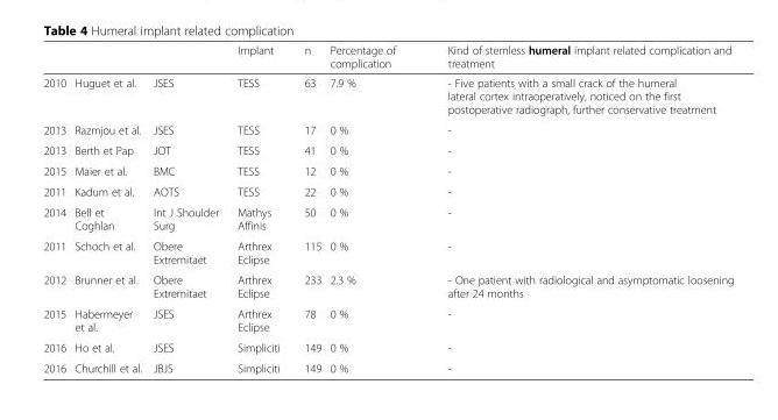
<table><thead><tr><td></td><td></td><td></td><td>Implant</td><td>n</td><td>Percentage of complication</td><td>Kind of stemless humeral implant related complication and treatment</td></tr></thead><tbody><tr><td>2010</td><td>Huguet et al.</td><td>JSES</td><td>TESS</td><td>63</td><td>7.9 %</td><td>- Five patients with a small crack of the humeral lateral cortex intraoperatively, noticed on the first postoperative radiograph, further conservative treatment</td></tr><tr><td>2013</td><td>Razmjou et al.</td><td>JSES</td><td>TESS</td><td>17</td><td>0 %</td><td>-</td></tr><tr><td>2013</td><td>Berth et Pap</td><td>JOT</td><td>TESS</td><td>41</td><td>0 %</td><td>-</td></tr><tr><td>2015</td><td>Maier et al.</td><td>BMC</td><td>TESS</td><td>12</td><td>0 %</td><td>-</td></tr><tr><td>2011</td><td>Kadum et al.</td><td>AOTS</td><td>TESS</td><td>22</td><td>0 %</td><td>-</td></tr><tr><td>2014</td><td>Bell et Coghlan</td><td>Int J Shoulder Surg</td><td>Mathys Affinis</td><td>50</td><td>0 %</td><td>-</td></tr><tr><td>2011</td><td>Schoch et al.</td><td>Obere Extremitaet</td><td>Arthrex Eclipse</td><td>115</td><td>0 %</td><td>-</td></tr><tr><td>2012</td><td>Brunner et al.</td><td>Obere Extremitaet</td><td>Arthrex Eclipse</td><td>233</td><td>2.3 %</td><td>- One patient with radiological and asymptomatic loosening after 24 months</td></tr><tr><td>2015</td><td>Habermeyer et al.</td><td>JSES</td><td>Arthrex Eclipse</td><td>78</td><td>0 %</td><td>-</td></tr><tr><td>2016</td><td>Ho et al.</td><td>JSES</td><td>Simpliciti</td><td>149</td><td>0 %</td><td>-</td></tr><tr><td>2016</td><td>Churchill et al.</td><td>JBJS</td><td>Simpliciti</td><td>149</td><td>0 %</td><td>-</td></tr></tbody></table>